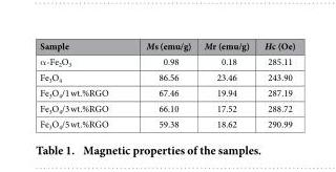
<table><thead><tr><td>Sample</td><td>Ms (emu/g)</td><td>Mr (emu/g)</td><td>Hc (Oe)</td></tr></thead><tbody><tr><td>α -Fe<sub>2</sub>O<sub>3</sub></td><td>0.98</td><td>0.18</td><td>285.11</td></tr><tr><td>Fe<sub>3</sub>O<sub>4</sub></td><td>86.56</td><td>23.46</td><td>243.90</td></tr><tr><td>Fe<sub>3</sub>O<sub>4</sub>/1 wt.%RGO</td><td>67.46</td><td>19.94</td><td>287.19</td></tr><tr><td>Fe<sub>3</sub>O<sub>4</sub>/3 wt.%RGO</td><td>66.10</td><td>17.52</td><td>288.72</td></tr><tr><td>Fe<sub>3</sub>O<sub>4</sub>/5 wt.%RGO</td><td>59.38</td><td>18.62</td><td>290.99</td></tr></tbody></table>